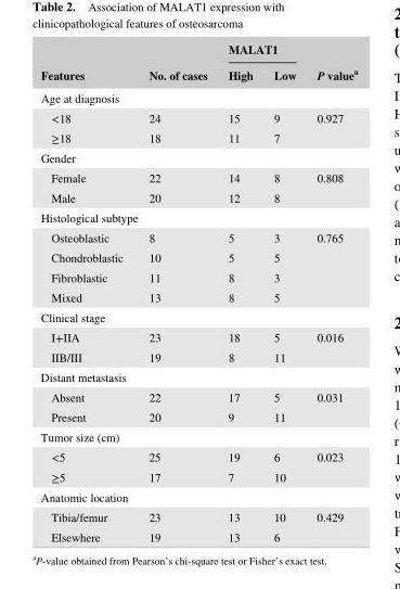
<table><thead><tr><td rowspan="2">Features</td><td rowspan="2">No. of cases</td><td colspan="2">MALAT1</td><td rowspan="2">P value<sup>a</sup></td></tr><tr><td>High</td><td>Low</td></tr></thead><tbody><tr><td colspan="5">Age at diagnosis</td></tr><tr><td>&lt;18</td><td>24</td><td>15</td><td>9</td><td rowspan="2">0.927</td></tr><tr><td>≥18</td><td>18</td><td>11</td><td>7</td></tr><tr><td colspan="5">Gender</td></tr><tr><td>Female</td><td>22</td><td>14</td><td>8</td><td rowspan="2">0.808</td></tr><tr><td>Male</td><td>20</td><td>12</td><td>8</td></tr><tr><td colspan="5">Histological subtype</td></tr><tr><td>Osteoblastic</td><td>8</td><td>5</td><td>3</td><td rowspan="4">0.765</td></tr><tr><td>Chondroblastic</td><td>10</td><td>5</td><td>5</td></tr><tr><td>Fibroblastic</td><td>11</td><td>8</td><td>3</td></tr><tr><td>Mixed</td><td>13</td><td>8</td><td>5</td></tr><tr><td colspan="5">Clinical stage</td></tr><tr><td>I+IIA</td><td>23</td><td>18</td><td>5</td><td rowspan="2">0.016</td></tr><tr><td>IIB/III</td><td>19</td><td>8</td><td>11</td></tr><tr><td colspan="5">Distant metastasis</td></tr><tr><td>Absent</td><td>22</td><td>17</td><td>5</td><td rowspan="2">0.031</td></tr><tr><td>Present</td><td>20</td><td>9</td><td>11</td></tr><tr><td colspan="5">Tumor size (cm)</td></tr><tr><td>&lt;5</td><td>25</td><td>19</td><td>6</td><td rowspan="2">0.023</td></tr><tr><td>≥5</td><td>17</td><td>7</td><td>10</td></tr><tr><td colspan="5">Anatomic location</td></tr><tr><td>Tibia/femur</td><td>23</td><td>13</td><td>10</td><td rowspan="2">0.429</td></tr><tr><td>Elsewhere</td><td>19</td><td>13</td><td>6</td></tr></tbody></table>